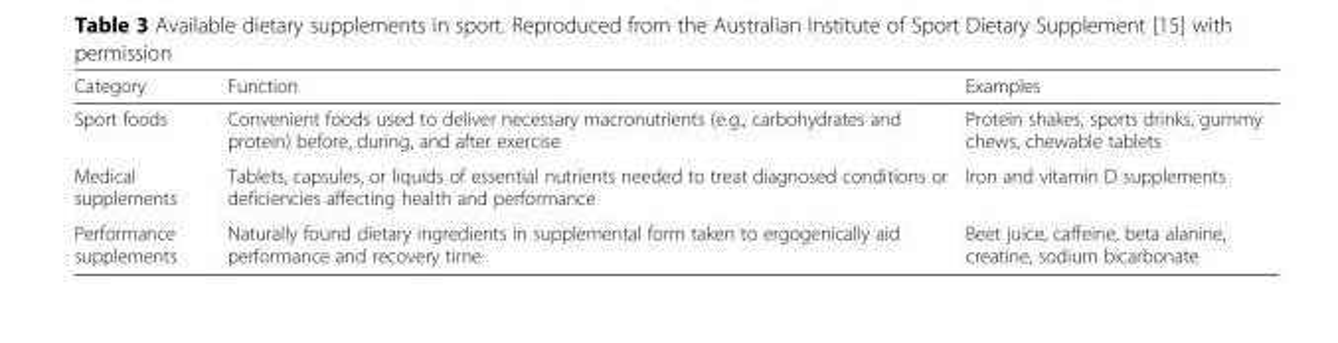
<table><thead><tr><td>Category</td><td>Function</td><td>Examples</td></tr></thead><tbody><tr><td>Sport foods</td><td>Convenient foods used to deliver necessary macronutrients (e.g., carbohydrates and protein) before, during, and after exercise</td><td>Protein shakes, sports drinks, gummy chews, chewable tablets</td></tr><tr><td>Medical supplements</td><td>Tablets, capsules, or liquids of essential nutrients needed to treat diagnosed conditions or deficiencies affecting health and performance</td><td>Iron and vitamin D supplements</td></tr><tr><td>Performance supplements</td><td>Naturally found dietary ingredients in supplemental form taken to ergogenically aid performance and recovery time</td><td>Beet juice, caffeine, beta alanine, creatine, sodium bicarbonate</td></tr></tbody></table>